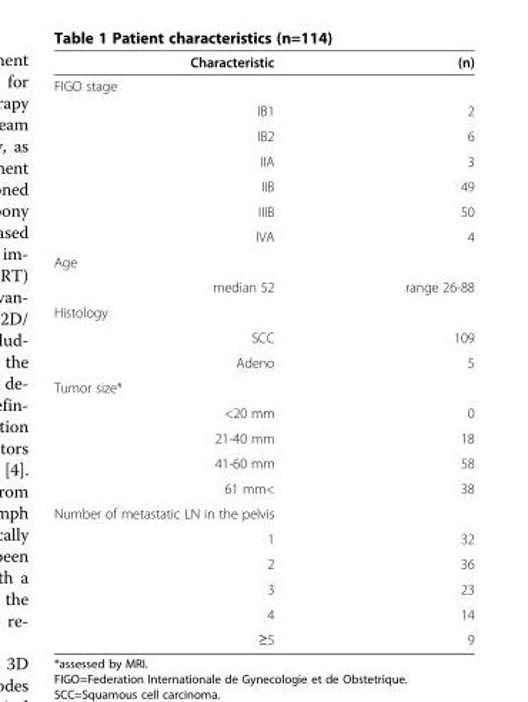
<table><thead><tr><td>Characteristic</td><td>(n)</td></tr></thead><tbody><tr><td colspan="2">FIGO stage</td></tr><tr><td>IB1</td><td>2</td></tr><tr><td>IB2</td><td>6</td></tr><tr><td>IIA</td><td>3</td></tr><tr><td>IIB</td><td>49</td></tr><tr><td>IIIB</td><td>50</td></tr><tr><td>IVA</td><td>4</td></tr><tr><td colspan="2">Age</td></tr><tr><td>median 52</td><td>range 26-88</td></tr><tr><td colspan="2">Histology</td></tr><tr><td>SCC</td><td>109</td></tr><tr><td>Adeno</td><td>5</td></tr><tr><td colspan="2">Tumor size*</td></tr><tr><td>&lt;20 mm</td><td>0</td></tr><tr><td>21-40 mm</td><td>18</td></tr><tr><td>41-60 mm</td><td>58</td></tr><tr><td>61 mm&lt;</td><td>38</td></tr><tr><td colspan="2">Number of metastatic LN in the pelvis</td></tr><tr><td>1</td><td>32</td></tr><tr><td>2</td><td>36</td></tr><tr><td>3</td><td>23</td></tr><tr><td>4</td><td>14</td></tr><tr><td>≥5</td><td>9</td></tr></tbody></table>